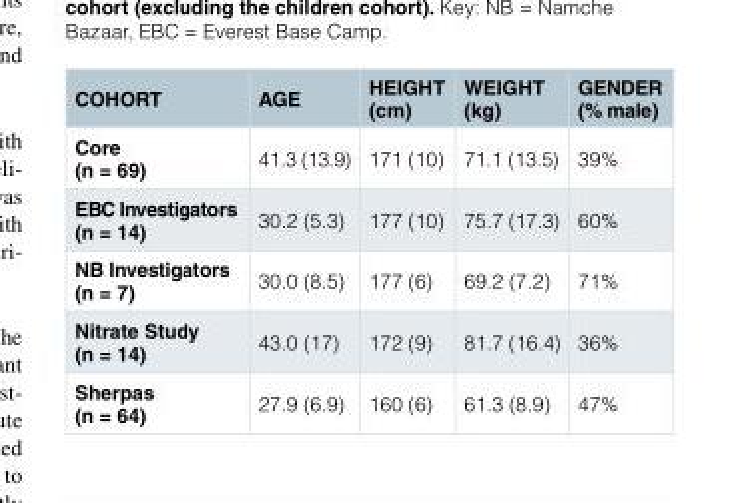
<table><thead><tr><td>COHORT</td><td>AGE</td><td>HEIGHT (cm)</td><td>WEIGHT (kg)</td><td>GENDER (% male)</td></tr></thead><tbody><tr><td>Core (n = 69)</td><td>41.3 (13.9)</td><td>171 (10)</td><td>71.1 (13.5)</td><td>39%</td></tr><tr><td>EBC Investigators (n = 14)</td><td>30.2 (5.3)</td><td>177 (10)</td><td>75.7 (17.3)</td><td>60%</td></tr><tr><td>NB Investigators (n = 7)</td><td>30.0 (8.5)</td><td>177 (6)</td><td>69.2 (7.2)</td><td>71%</td></tr><tr><td>Nitrate Study (n = 14)</td><td>43.0 (17)</td><td>172 (9)</td><td>81.7 (16.4)</td><td>36%</td></tr><tr><td>Sherpas (n = 64)</td><td>27.9 (6.9)</td><td>160 (6)</td><td>61.3 (8.9)</td><td>47%</td></tr></tbody></table>